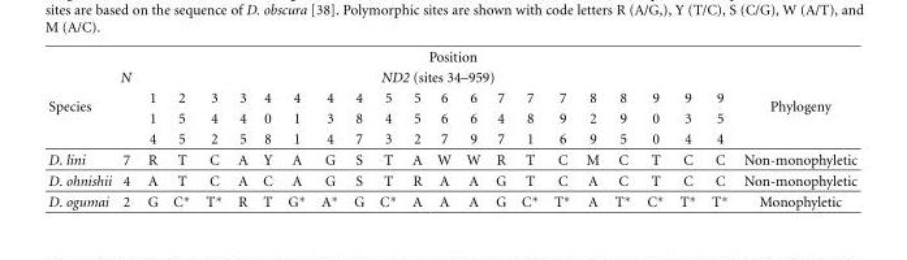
<table><tbody><tr><td colspan="23">Position</td></tr><tr><td rowspan="4">Species</td><td>N</td><td colspan="20">ND2 (sites 34–959)</td><td rowspan="4">Phylogeny</td></tr><tr><td></td><td>1</td><td>2</td><td>3</td><td>3</td><td>4</td><td>4</td><td>4</td><td>4</td><td>5</td><td>5</td><td>6</td><td>6</td><td>7</td><td>7</td><td>7</td><td>8</td><td>8</td><td>9</td><td>9</td><td>9</td></tr><tr><td></td><td>1</td><td>5</td><td>4</td><td>4</td><td>0</td><td>1</td><td>3</td><td>8</td><td>4</td><td>5</td><td>6</td><td>6</td><td>4</td><td>8</td><td>9</td><td>2</td><td>9</td><td>0</td><td>3</td><td>5</td></tr><tr><td></td><td>4</td><td>5</td><td>2</td><td>5</td><td>8</td><td>1</td><td>4</td><td>7</td><td>3</td><td>2</td><td>7</td><td>9</td><td>7</td><td>1</td><td>6</td><td>9</td><td>5</td><td>0</td><td>4</td><td>4</td></tr><tr><td>D. lini</td><td>7</td><td>R</td><td>T</td><td>C</td><td>A</td><td>Y</td><td>A</td><td>G</td><td>S</td><td>T</td><td>A</td><td>W</td><td>W</td><td>R</td><td>T</td><td>C</td><td>M</td><td>C</td><td>T</td><td>C</td><td>C</td><td>Non-monophyletic</td></tr><tr><td>D. ohnishii</td><td>4</td><td>A</td><td>T</td><td>C</td><td>A</td><td>C</td><td>A</td><td>G</td><td>S</td><td>T</td><td>R</td><td>A</td><td>A</td><td>G</td><td>T</td><td>C</td><td>A</td><td>C</td><td>T</td><td>C</td><td>C</td><td>Non-monophyletic</td></tr><tr><td>D. ogumai</td><td>2</td><td>G</td><td>C∗</td><td>T∗</td><td>R</td><td>T</td><td>G∗</td><td>A∗</td><td>G</td><td>C∗</td><td>A</td><td>A</td><td>A</td><td>G</td><td>C∗</td><td>T∗</td><td>A</td><td>T∗</td><td>C∗</td><td>T∗</td><td>T∗</td><td>Monophyletic</td></tr></tbody></table>